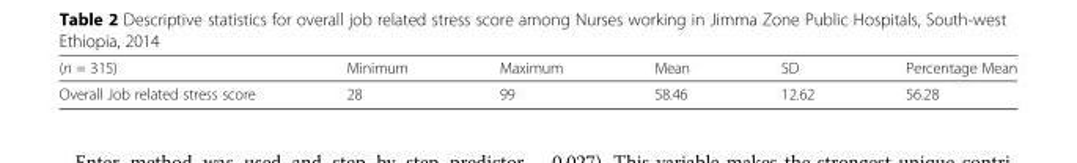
<table><thead><tr><td>(n = 315)</td><td>Minimum</td><td>Maximum</td><td>Mean</td><td>SD</td><td>Percentage Mean</td></tr></thead><tbody><tr><td>Overall Job related stress score</td><td>28</td><td>99</td><td>58.46</td><td>12.62</td><td>56.28</td></tr></tbody></table>